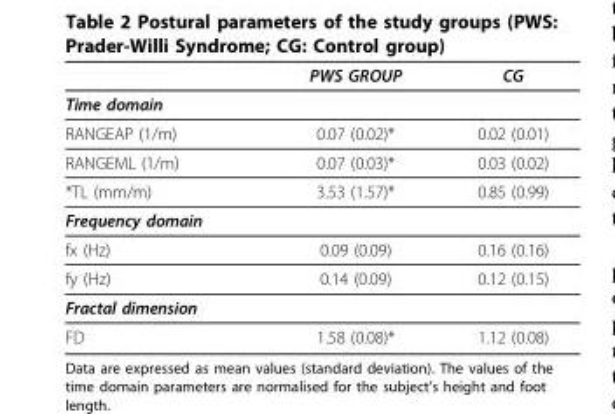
<table><thead><tr><td></td><td>PWS GROUP</td><td>CG</td></tr></thead><tbody><tr><td colspan="3">Time domain</td></tr><tr><td>RANGEAP (1/m)</td><td>0.07 (0.02)*</td><td>0.02 (0.01)</td></tr><tr><td>RANGEML (1/m)</td><td>0.07 (0.03)*</td><td>0.03 (0.02)</td></tr><tr><td>*TL (mm/m)</td><td>3.53 (1.57)*</td><td>0.85 (0.99)</td></tr><tr><td colspan="3">Frequency domain</td></tr><tr><td>fx (Hz)</td><td>0.09 (0.09)</td><td>0.16 (0.16)</td></tr><tr><td>fy (Hz)</td><td>0.14 (0.09)</td><td>0.12 (0.15)</td></tr><tr><td colspan="3">Fractal dimension</td></tr><tr><td>FD</td><td>1.58 (0.08)*</td><td>1.12 (0.08)</td></tr></tbody></table>